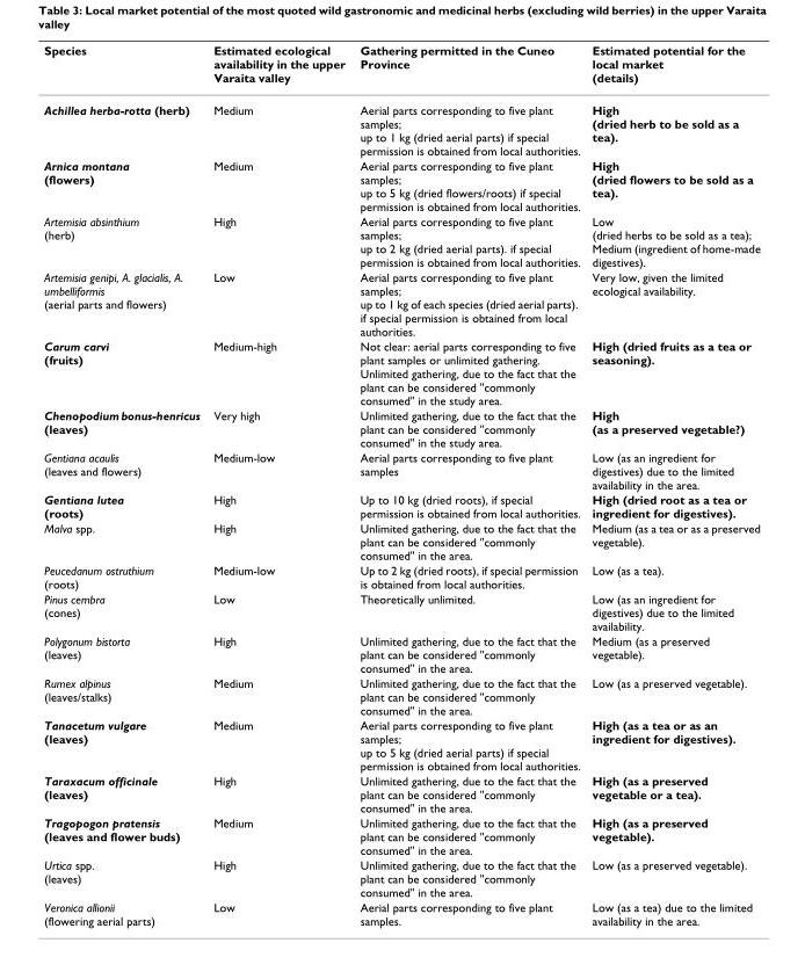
<table><thead><tr><td>Species</td><td>Estimated ecological availability in the upper Varaita valley</td><td>Gathering permitted in the Cuneo Province</td><td>Estimated potential for the local market (details)</td></tr></thead><tbody><tr><td>Achillea herba-rotta (herb)</td><td>Medium</td><td>Aerial parts corresponding to five plant samples; up to 1 kg (dried aerial parts) if special permission is obtained from local authorities.</td><td>High (dried herb to be sold as a tea).</td></tr><tr><td>Arnica montana (flowers)</td><td>Medium</td><td>Aerial parts corresponding to five plant samples; up to 5 kg (dried flowers/roots) if special permission is obtained from local authorities.</td><td>High (dried flowers to be sold as a tea).</td></tr><tr><td>Artemisia absinthium (herb)</td><td>High</td><td>Aerial parts corresponding to five plant samples; up to 2 kg (dried aerial parts). if special permission is obtained from local authorities.</td><td>Low (dried herbs to be sold as a tea); Medium (ingredient of home-made digestives).</td></tr><tr><td>Artemisia genipi, A. glacialis, A. umbelliformis (aerial parts and flowers)</td><td>Low</td><td>Aerial parts corresponding to five plant samples; up to 1 kg of each species (dried aerial parts). if special permission is obtained from local authorities.</td><td>Very low, given the limited ecological availability.</td></tr><tr><td>Carum carvi (fruits)</td><td>Medium-high</td><td>Not clear: aerial parts corresponding to five plant samples or unlimited gathering. Unlimited gathering, due to the fact that the plant can be considered &quot;commonly consumed&quot; in the study area.</td><td>High (dried fruits as a tea or seasoning).</td></tr><tr><td>Chenopodium bonus-henricus (leaves)</td><td>Very high</td><td>Unlimited gathering, due to the fact that the plant can be considered &quot;commonly consumed&quot; in the study area.</td><td>High (as a preserved vegetable?)</td></tr><tr><td>Gentiana acaulis (leaves and flowers)</td><td>Medium-low</td><td>Aerial parts corresponding to five plant samples</td><td>Low (as an ingredient for digestives) due to the limited availability in the area.</td></tr><tr><td>Gentiana lutea (roots)</td><td>High</td><td>Up to 10 kg (dried roots), if special permission is obtained from local authorities.</td><td>High (dried root as a tea or ingredient for digestives).</td></tr><tr><td>Malva spp.</td><td>High</td><td>Unlimited gathering, due to the fact that the plant can be considered &quot;commonly consumed&quot; in the area.</td><td>Medium (as a tea or as a preserved vegetable).</td></tr><tr><td>Peucedanum ostruthium (roots)</td><td>Medium-low</td><td>Up to 2 kg (dried roots), if special permission is obtained from local authorities.</td><td>Low (as a tea).</td></tr><tr><td>Pinus cembra (cones)</td><td>Low</td><td>Theoretically unlimited.</td><td>Low (as an ingredient for digestives) due to the limited availability.</td></tr><tr><td>Polygonum bistorta (leaves)</td><td>High</td><td>Unlimited gathering, due to the fact that the plant can be considered &quot;commonly consumed&quot; in the area.</td><td>Medium (as a preserved vegetable).</td></tr><tr><td>Rumex alpinus (leaves/stalks)</td><td>Medium</td><td>Unlimited gathering, due to the fact that the plant can be considered &quot;commonly consumed&quot; in the area.</td><td>Low (as a preserved vegetable).</td></tr><tr><td>Tanacetum vulgare (leaves)</td><td>Medium</td><td>Aerial parts corresponding to five plant samples; up to 5 kg (dried aerial parts) if special permission is obtained from local authorities.</td><td>High (as a tea or as an ingredient for digestives).</td></tr><tr><td>Taraxacum officinale (leaves)</td><td>High</td><td>Unlimited gathering, due to the fact that the plant can be considered &quot;commonly consumed&quot; in the area.</td><td>High (as a preserved vegetable or a tea).</td></tr><tr><td>Tragopogon pratensis (leaves and flower buds)</td><td>Medium</td><td>Unlimited gathering, due to the fact that the plant can be considered &quot;commonly consumed&quot; in the area.</td><td>High (as a preserved vegetable).</td></tr><tr><td>Urtica spp. (leaves)</td><td>High</td><td>Unlimited gathering, due to the fact that the plant can be considered &quot;commonly consumed&quot; in the area.</td><td>Low (as a preserved vegetable).</td></tr><tr><td>Veronica allionii (flowering aerial parts)</td><td>Low</td><td>Aerial parts corresponding to five plant samples.</td><td>Low (as a tea) due to the limited availability in the area.</td></tr></tbody></table>